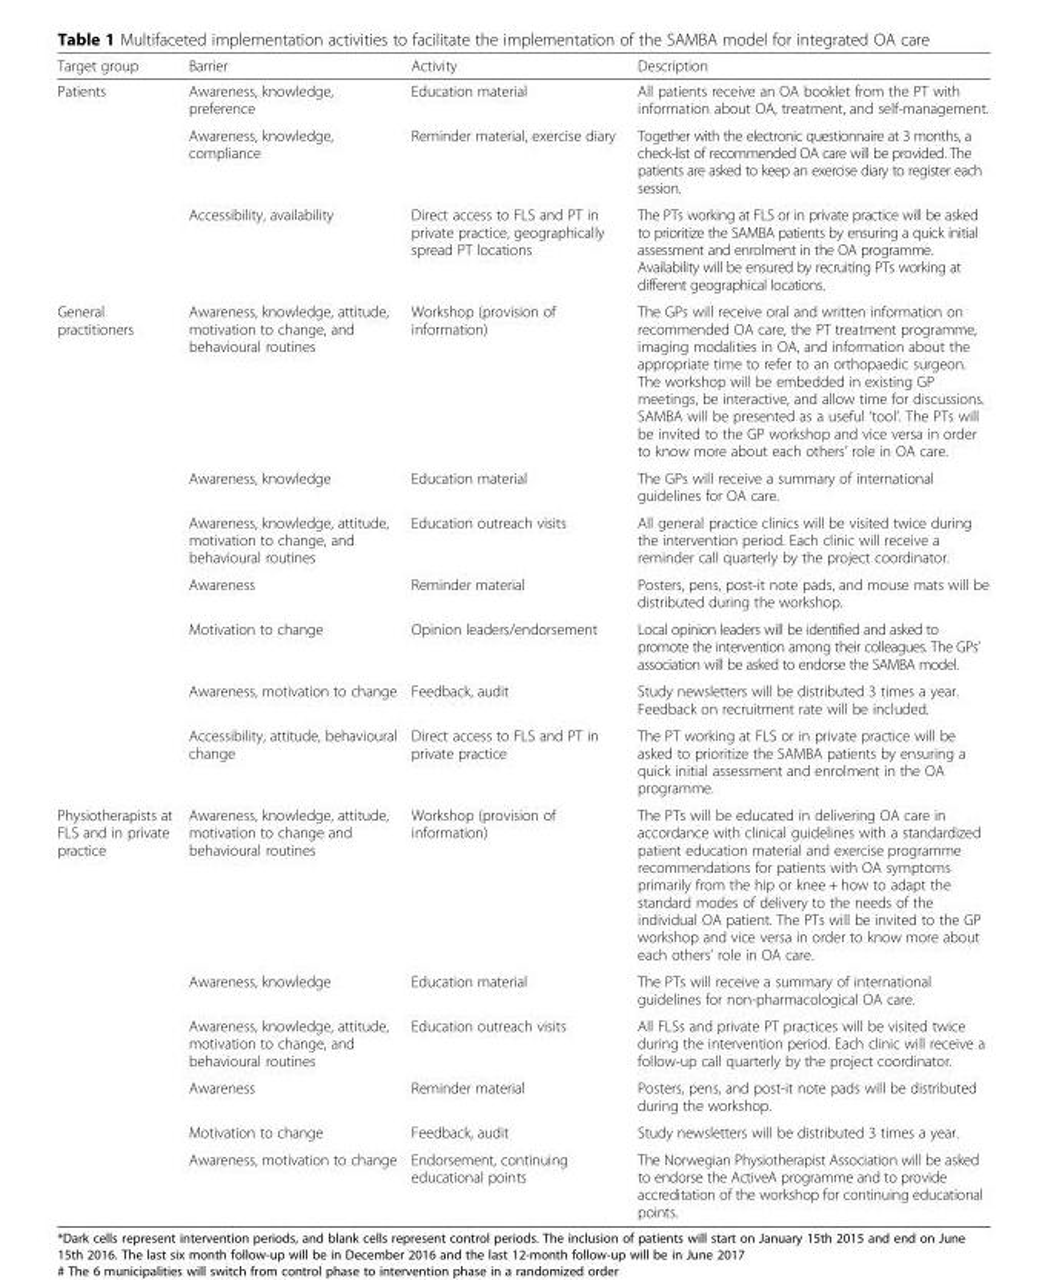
<table><thead><tr><td>Target group</td><td>Barrier</td><td>Activity</td><td>Description</td></tr></thead><tbody><tr><td rowspan="3">Patients</td><td>Awareness, knowledge, preference</td><td>Education material</td><td>All patients receive an OA booklet from the PT with information about OA, treatment, and self-management.</td></tr><tr><td>Awareness, knowledge, compliance</td><td>Reminder material, exercise diary</td><td>Together with the electronic questionnaire at 3 months, a check-list of recommended OA care will be provided. The patients are asked to keep an exercise diary to register each session.</td></tr><tr><td>Accessibility, availability</td><td>Direct access to FLS and PT in private practice, geographically spread PT locations</td><td>The PTs working at FLS or in private practice will be asked to prioritize the SAMBA patients by ensuring a quick initial assessment and enrolment in the OA programme. Availability will be ensured by recruiting PTs working at different geographical locations.</td></tr><tr><td rowspan="7">General practitioners</td><td>Awareness, knowledge, attitude, motivation to change, and behavioural routines</td><td>Workshop (provision of information)</td><td>The GPs will receive oral and written information on recommended OA care, the PT treatment programme, imaging modalities in OA, and information about the appropriate time to refer to an orthopaedic surgeon. The workshop will be embedded in existing GP meetings, be interactive, and allow time for discussions. SAMBA will be presented as a useful ‘tool’. The PTs will be invited to the GP workshop and vice versa in order to know more about each others’ role in OA care.</td></tr><tr><td>Awareness, knowledge</td><td>Education material</td><td>The GPs will receive a summary of international guidelines for OA care.</td></tr><tr><td>Awareness, knowledge, attitude, motivation to change, and behavioural routines</td><td>Education outreach visits</td><td>All general practice clinics will be visited twice during the intervention period. Each clinic will receive a reminder call quarterly by the project coordinator.</td></tr><tr><td>Awareness</td><td>Reminder material</td><td>Posters, pens, post-it note pads, and mouse mats will be distributed during the workshop.</td></tr><tr><td>Motivation to change</td><td>Opinion leaders/endorsement</td><td>Local opinion leaders will be identified and asked to promote the intervention among their colleagues. The GPs’ association will be asked to endorse the SAMBA model.</td></tr><tr><td>Awareness, motivation to change</td><td>Feedback, audit</td><td>Study newsletters will be distributed 3 times a year. Feedback on recruitment rate will be included.</td></tr><tr><td>Accessibility, attitude, behavioural change</td><td>Direct access to FLS and PT in private practice</td><td>The PT working at FLS or in private practice will be asked to prioritize the SAMBA patients by ensuring a quick initial assessment and enrolment in the OA programme.</td></tr><tr><td rowspan="6">Physiotherapists at FLS and in private practice</td><td>Awareness, knowledge, attitude, motivation to change and behavioural routines</td><td>Workshop (provision of information)</td><td>The PTs will be educated in delivering OA care in accordance with clinical guidelines with a standardized patient education material and exercise programme recommendations for patients with OA symptoms primarily from the hip or knee + how to adapt the standard modes of delivery to the needs of the individual OA patient. The PTs will be invited to the GP workshop and vice versa in order to know more about each others’ role in OA care.</td></tr><tr><td>Awareness, knowledge</td><td>Education material</td><td>The PTs will receive a summary of international guidelines for non-pharmacological OA care.</td></tr><tr><td>Awareness, knowledge, attitude, motivation to change, and behavioural routines</td><td>Education outreach visits</td><td>All FLSs and private PT practices will be visited twice during the intervention period. Each clinic will receive a follow-up call quarterly by the project coordinator.</td></tr><tr><td>Awareness</td><td>Reminder material</td><td>Posters, pens, and post-it note pads will be distributed during the workshop.</td></tr><tr><td>Motivation to change</td><td>Feedback, audit</td><td>Study newsletters will be distributed 3 times a year.</td></tr><tr><td>Awareness, motivation to change</td><td>Endorsement, continuing educational points</td><td>The Norwegian Physiotherapist Association will be asked to endorse the ActiveA programme and to provide accreditation of the workshop for continuing educational points.</td></tr></tbody></table>